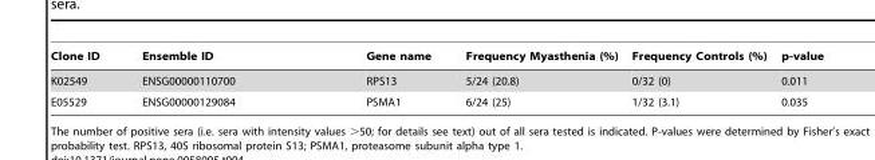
<table><thead><tr><td>Clone ID</td><td>Ensemble ID</td><td>Gene name</td><td>Frequency Myasthenia (%)</td><td>Frequency Controls (%)</td><td>p-value</td></tr></thead><tbody><tr><td>K02549</td><td>ENSG00000110700</td><td>RPS13</td><td>5/24 (20.8)</td><td>0/32 (0)</td><td>0.011</td></tr><tr><td>E05529</td><td>ENSG00000129084</td><td>PSMA1</td><td>6/24 (25)</td><td>1/32 (3.1)</td><td>0.035</td></tr></tbody></table>